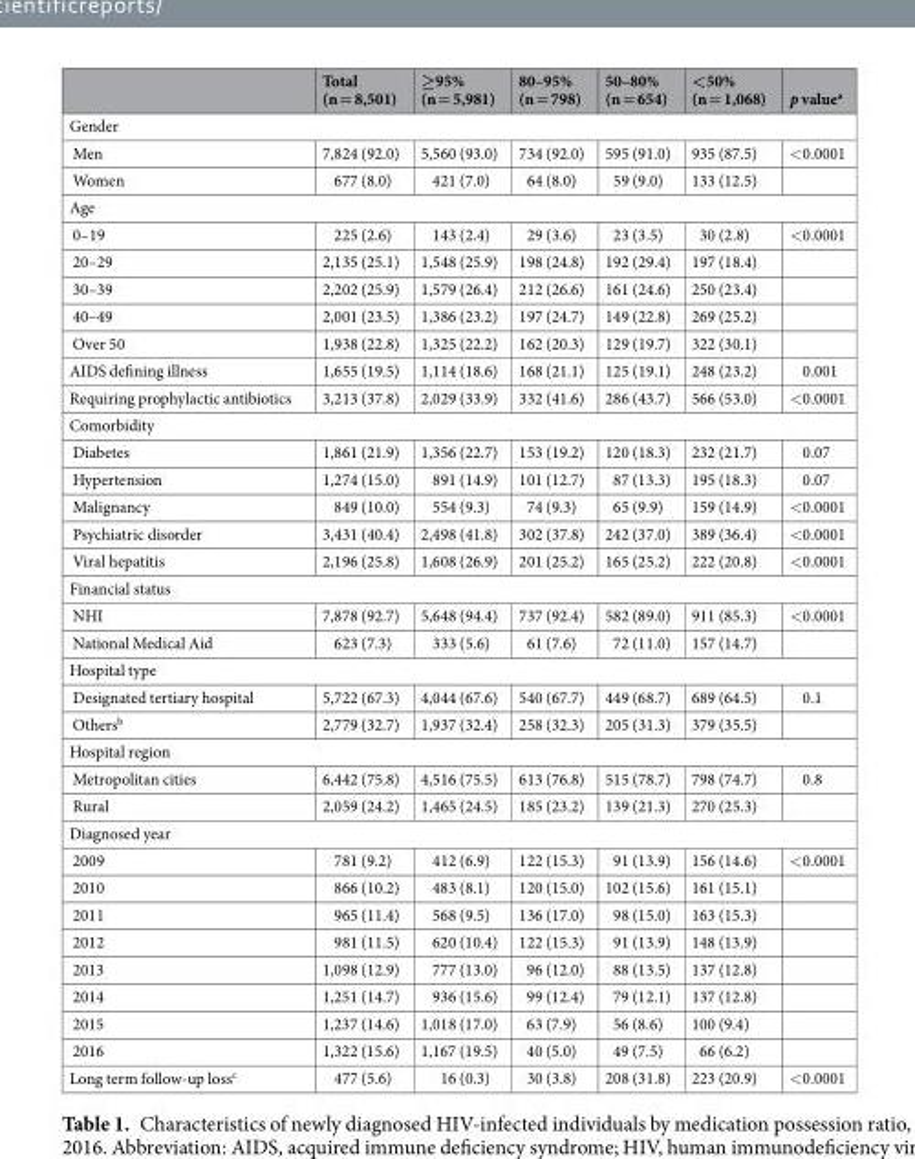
<table><thead><tr><td></td><td>Total (n = 8,501)</td><td>≥95% (n = 5,981)</td><td>80–95% (n = 798)</td><td>50–80% (n = 654)</td><td>&lt;50% (n = 1,068)</td><td>p value<sup>a</sup></td></tr></thead><tbody><tr><td colspan="7">Gender</td></tr><tr><td>Men</td><td>7,824 (92.0)</td><td>5,560 (93.0)</td><td>734 (92.0)</td><td>595 (91.0)</td><td>935 (87.5)</td><td>&lt;0.0001</td></tr><tr><td>Women</td><td>677 (8.0)</td><td>421 (7.0)</td><td>64 (8.0)</td><td>59 (9.0)</td><td>133 (12.5)</td><td></td></tr><tr><td colspan="7">Age</td></tr><tr><td>0–19</td><td>225 (2.6)</td><td>143 (2.4)</td><td>29 (3.6)</td><td>23 (3.5)</td><td>30 (2.8)</td><td>&lt;0.0001</td></tr><tr><td>20–29</td><td>2,135 (25.1)</td><td>1,548 (25.9)</td><td>198 (24.8)</td><td>192 (29.4)</td><td>197 (18.4)</td><td></td></tr><tr><td>30–39</td><td>2,202 (25.9)</td><td>1,579 (26.4)</td><td>212 (26.6)</td><td>161 (24.6)</td><td>250 (23.4)</td><td></td></tr><tr><td>40–49</td><td>2,001 (23.5)</td><td>1,386 (23.2)</td><td>197 (24.7)</td><td>149 (22.8)</td><td>269 (25.2)</td><td></td></tr><tr><td>Over 50</td><td>1,938 (22.8)</td><td>1,325 (22.2)</td><td>162 (20.3)</td><td>129 (19.7)</td><td>322 (30.1)</td><td></td></tr><tr><td>AIDS defining illness</td><td>1,655 (19.5)</td><td>1,114 (18.6)</td><td>168 (21.1)</td><td>125 (19.1)</td><td>248 (23.2)</td><td>0.001</td></tr><tr><td>Requiring prophylactic antibiotics</td><td>3,213 (37.8)</td><td>2,029 (33.9)</td><td>332 (41.6)</td><td>286 (43.7)</td><td>566 (53.0)</td><td>&lt;0.0001</td></tr><tr><td colspan="7">Comorbidity</td></tr><tr><td>Diabetes</td><td>1,861 (21.9)</td><td>1,356 (22.7)</td><td>153 (19.2)</td><td>120 (18.3)</td><td>232 (21.7)</td><td>0.07</td></tr><tr><td>Hypertension</td><td>1,274 (15.0)</td><td>891 (14.9)</td><td>101 (12.7)</td><td>87 (13.3)</td><td>195 (18.3)</td><td>0.07</td></tr><tr><td>Malignancy</td><td>849 (10.0)</td><td>554 (9.3)</td><td>74 (9.3)</td><td>65 (9.9)</td><td>159 (14.9)</td><td>&lt;0.0001</td></tr><tr><td>Psychiatric disorder</td><td>3,431 (40.4)</td><td>2,498 (41.8)</td><td>302 (37.8)</td><td>242 (37.0)</td><td>389 (36.4)</td><td>&lt;0.0001</td></tr><tr><td>Viral hepatitis</td><td>2,196 (25.8)</td><td>1,608 (26.9)</td><td>201 (25.2)</td><td>165 (25.2)</td><td>222 (20.8)</td><td>&lt;0.0001</td></tr><tr><td colspan="7">Financial status</td></tr><tr><td>NHI</td><td>7,878 (92.7)</td><td>5,648 (94.4)</td><td>737 (92.4)</td><td>582 (89.0)</td><td>911 (85.3)</td><td>&lt;0.0001</td></tr><tr><td>National Medical Aid</td><td>623 (7.3)</td><td>333 (5.6)</td><td>61 (7.6)</td><td>72 (11.0)</td><td>157 (14.7)</td><td></td></tr><tr><td colspan="7">Hospital type</td></tr><tr><td>Designated tertiary hospital</td><td>5,722 (67.3)</td><td>4,044 (67.6)</td><td>540 (67.7)</td><td>449 (68.7)</td><td>689 (64.5)</td><td>0.1</td></tr><tr><td>Others<sup>b</sup></td><td>2,779 (32.7)</td><td>1,937 (32.4)</td><td>258 (32.3)</td><td>205 (31.3)</td><td>379 (35.5)</td><td></td></tr><tr><td colspan="7">Hospital region</td></tr><tr><td>Metropolitan cities</td><td>6,442 (75.8)</td><td>4,516 (75.5)</td><td>613 (76.8)</td><td>515 (78.7)</td><td>798 (74.7)</td><td>0.8</td></tr><tr><td>Rural</td><td>2,059 (24.2)</td><td>1,465 (24.5)</td><td>185 (23.2)</td><td>139 (21.3)</td><td>270 (25.3)</td><td></td></tr><tr><td colspan="7">Diagnosed year</td></tr><tr><td>2009</td><td>781 (9.2)</td><td>412 (6.9)</td><td>122 (15.3)</td><td>91 (13.9)</td><td>156 (14.6)</td><td>&lt;0.0001</td></tr><tr><td>2010</td><td>866 (10.2)</td><td>483 (8.1)</td><td>120 (15.0)</td><td>102 (15.6)</td><td>161 (15.1)</td><td></td></tr><tr><td>2011</td><td>965 (11.4)</td><td>568 (9.5)</td><td>136 (17.0)</td><td>98 (15.0)</td><td>163 (15.3)</td><td></td></tr><tr><td>2012</td><td>981 (11.5)</td><td>620 (10.4)</td><td>122 (15.3)</td><td>91 (13.9)</td><td>148 (13.9)</td><td></td></tr><tr><td>2013</td><td>1,098 (12.9)</td><td>777 (13.0)</td><td>96 (12.0)</td><td>88 (13.5)</td><td>137 (12.8)</td><td></td></tr><tr><td>2014</td><td>1,251 (14.7)</td><td>936 (15.6)</td><td>99 (12.4)</td><td>79 (12.1)</td><td>137 (12.8)</td><td></td></tr><tr><td>2015</td><td>1,237 (14.6)</td><td>1,018 (17.0)</td><td>63 (7.9)</td><td>56 (8.6)</td><td>100 (9.4)</td><td></td></tr><tr><td>2016</td><td>1,322 (15.6)</td><td>1,167 (19.5)</td><td>40 (5.0)</td><td>49 (7.5)</td><td>66 (6.2)</td><td></td></tr><tr><td>Long term follow-up loss<sup>c</sup></td><td>477 (5.6)</td><td>16 (0.3)</td><td>30 (3.8)</td><td>208 (31.8)</td><td>223 (20.9)</td><td>&lt;0.0001</td></tr></tbody></table>